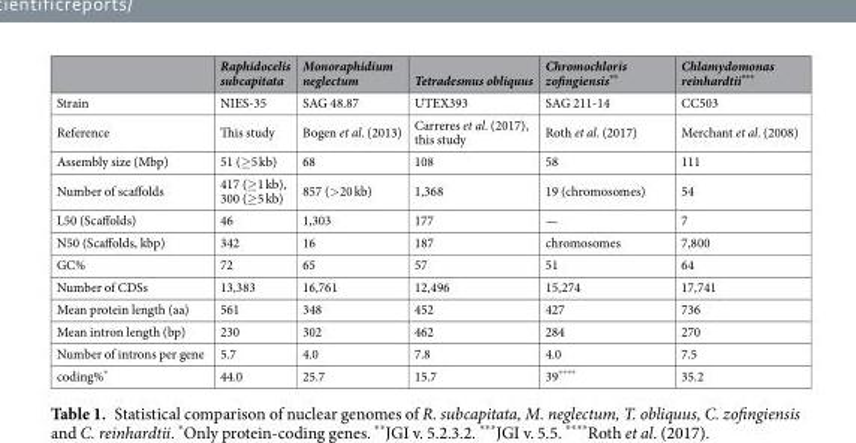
<table><thead><tr><td></td><td>Raphidocelis subcapitata</td><td>Monoraphidium neglectum</td><td>Tetradesmus obliquus</td><td>Chromochloris zofingiensis**</td><td>Chlamydomonas reinhardtii***</td></tr></thead><tbody><tr><td>Strain</td><td>NIES-35</td><td>SAG 48.87</td><td>UTEX393</td><td>SAG 211-14</td><td>CC503</td></tr><tr><td>Reference</td><td>This study</td><td>Bogen et al. (2013)</td><td>Carreres et al. (2017), this study</td><td>Roth et al. (2017)</td><td>Merchant et al. (2008)</td></tr><tr><td>Assembly size (Mbp)</td><td>51 (≥5 kb)</td><td>68</td><td>108</td><td>58</td><td>111</td></tr><tr><td>Number of scaffolds</td><td>417 (≥1 kb), 300 (≥5 kb)</td><td>857 (&gt;20 kb)</td><td>1,368</td><td>19 (chromosomes)</td><td>54</td></tr><tr><td>L50 (Scaffolds)</td><td>46</td><td>1,303</td><td>177</td><td>—</td><td>7</td></tr><tr><td>N50 (Scaffolds, kbp)</td><td>342</td><td>16</td><td>187</td><td>chromosomes</td><td>7,800</td></tr><tr><td>GC%</td><td>72</td><td>65</td><td>57</td><td>51</td><td>64</td></tr><tr><td>Number of CDSs</td><td>13,383</td><td>16,761</td><td>12,496</td><td>15,274</td><td>17,741</td></tr><tr><td>Mean protein length (aa)</td><td>561</td><td>348</td><td>452</td><td>427</td><td>736</td></tr><tr><td>Mean intron length (bp)</td><td>230</td><td>302</td><td>462</td><td>284</td><td>270</td></tr><tr><td>Number of introns per gene</td><td>5.7</td><td>4.0</td><td>7.8</td><td>4.0</td><td>7.5</td></tr><tr><td>coding%*</td><td>44.0</td><td>25.7</td><td>15.7</td><td>39****</td><td>35.2</td></tr></tbody></table>